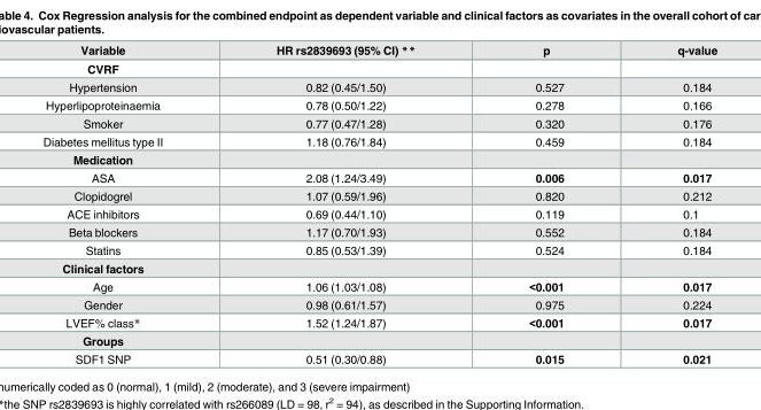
<table><thead><tr><td>Variable</td><td>HR rs2839693 (95% CI) **</td><td>p</td><td>q-value</td></tr></thead><tbody><tr><td colspan="4">CVRF</td></tr><tr><td>Hypertension</td><td>0.82 (0.45/1.50)</td><td>0.527</td><td>0.184</td></tr><tr><td>Hyperlipoproteinaemia</td><td>0.78 (0.50/1.22)</td><td>0.278</td><td>0.166</td></tr><tr><td>Smoker</td><td>0.77 (0.47/1.28)</td><td>0.320</td><td>0.176</td></tr><tr><td>Diabetes mellitus type II</td><td>1.18 (0.76/1.84)</td><td>0.459</td><td>0.184</td></tr><tr><td colspan="4">Medication</td></tr><tr><td>ASA</td><td>2.08 (1.24/3.49)</td><td>0.006</td><td>0.017</td></tr><tr><td>Clopidogrel</td><td>1.07 (0.59/1.96)</td><td>0.820</td><td>0.212</td></tr><tr><td>ACE inhibitors</td><td>0.69 (0.44/1.10)</td><td>0.119</td><td>0.1</td></tr><tr><td>Beta blockers</td><td>1.17 (0.70/1.93)</td><td>0.552</td><td>0.184</td></tr><tr><td>Statins</td><td>0.85 (0.53/1.39)</td><td>0.524</td><td>0.184</td></tr><tr><td colspan="4">Clinical factors</td></tr><tr><td>Age</td><td>1.06 (1.03/1.08)</td><td>&lt;0.001</td><td>0.017</td></tr><tr><td>Gender</td><td>0.98 (0.61/1.57)</td><td>0.975</td><td>0.224</td></tr><tr><td>LVEF% class*</td><td>1.52 (1.24/1.87)</td><td>&lt;0.001</td><td>0.017</td></tr><tr><td colspan="4">Groups</td></tr><tr><td>SDF1 SNP</td><td>0.51 (0.30/0.88)</td><td>0.015</td><td>0.021</td></tr></tbody></table>